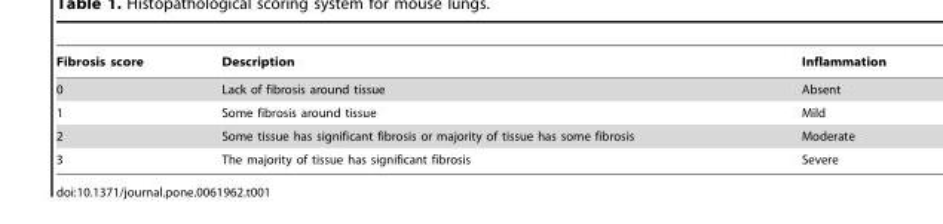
<table><thead><tr><td>Fibrosis score</td><td>Description</td><td>Inflammation</td></tr></thead><tbody><tr><td>0</td><td>Lack of fibrosis around tissue</td><td>Absent</td></tr><tr><td>1</td><td>Some fibrosis around tissue</td><td>Mild</td></tr><tr><td>2</td><td>Some tissue has significant fibrosis or majority of tissue has some fibrosis</td><td>Moderate</td></tr><tr><td>3</td><td>The majority of tissue has significant fibrosis</td><td>Severe</td></tr></tbody></table>